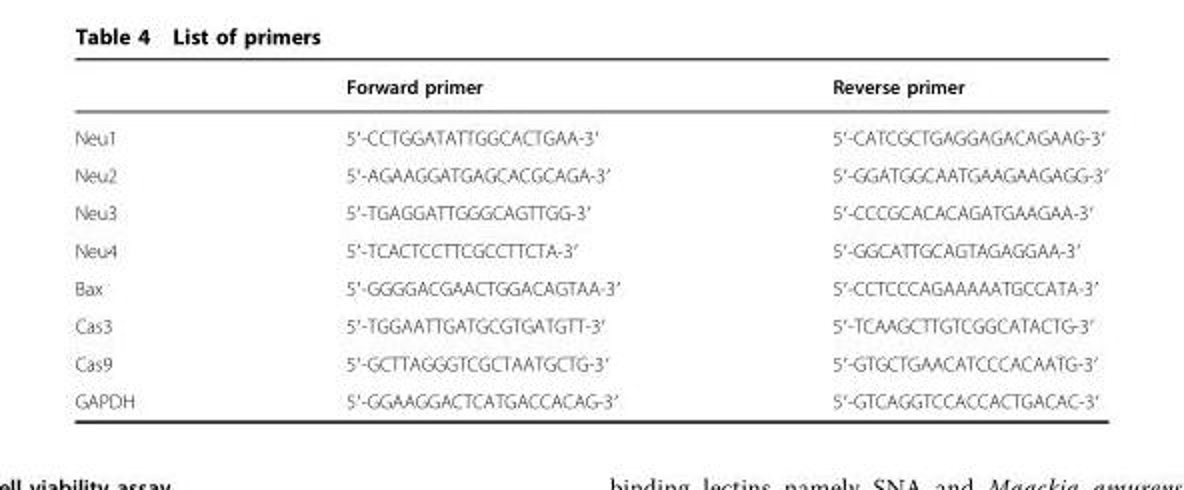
<table><thead><tr><td></td><td>Forward primer</td><td>Reverse primer</td></tr></thead><tbody><tr><td>Neu1</td><td>5′-CCTGGATATTGGCACTGAA-3′</td><td>5′-CATCGCTGAGGAGACAGAAG-3′</td></tr><tr><td>Neu2</td><td>5′-AGAAGGATGAGCACGCAGA-3′</td><td>5′-GGATGGCAATGAAGAAGAGG-3′</td></tr><tr><td>Neu3</td><td>5′-TGAGGATTGGGCAGTTGG-3′</td><td>5′-CCCGCACACAGATGAAGAA-3′</td></tr><tr><td>Neu4</td><td>5′-TCACTCCTTCGCCTTCTA-3′</td><td>5′-GGCATTGCAGTAGAGGAA-3′</td></tr><tr><td>Bax</td><td>5′-GGGGACGAACTGGACAGTAA-3′</td><td>5′-CCTCCCAGAAAAATGCCATA-3′</td></tr><tr><td>Cas3</td><td>5′-TGGAATTGATGCGTGATGTT-3′</td><td>5′-TCAAGCTTGTCGGCATACTG-3′</td></tr><tr><td>Cas9</td><td>5′-GCTTAGGGTCGCTAATGCTG-3′</td><td>5′-GTGCTGAACATCCCACAATG-3′</td></tr><tr><td>GAPDH</td><td>5′-GGAAGGACTCATGACCACAG-3′</td><td>5′-GTCAGGTCCACCACTGACAC-3′</td></tr></tbody></table>